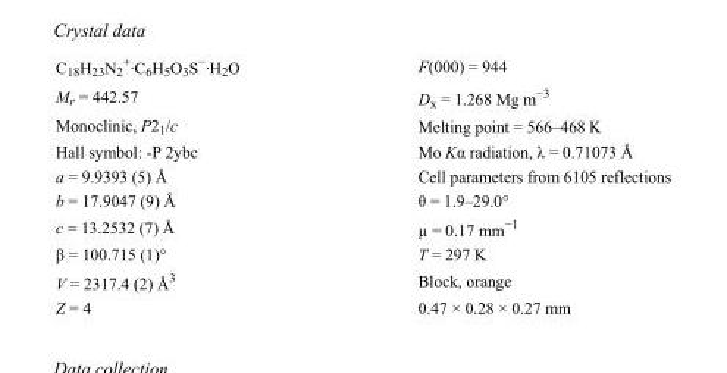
<table><tbody><tr><td>C<sub>18</sub>H<sub>23</sub>N<sub>2</sub> <sup>+</sup>·C<sub>6</sub>H<sub>5</sub>O<sub>3</sub>S<sup>−</sup>·H<sub>2</sub>O</td><td>F(000) = 944</td></tr><tr><td>M<sub>r</sub> = 442.57</td><td>D<sub>x</sub> = 1.268 Mg m<sup>−3</sup></td></tr><tr><td>Monoclinic, P2<sub>1</sub>/c</td><td>Melting point = 566–468 K</td></tr><tr><td>Hall symbol: -P 2ybc</td><td>Mo Kα radiation, λ = 0.71073 Å</td></tr><tr><td>a = 9.9393 (5) Å</td><td>Cell parameters from 6105 reflections</td></tr><tr><td>b = 17.9047 (9) Å</td><td>θ = 1.9–29.0°</td></tr><tr><td>c = 13.2532 (7) Å</td><td>µ = 0.17 mm<sup>−1</sup></td></tr><tr><td>β = 100.715 (1)°</td><td>T = 297 K</td></tr><tr><td>V = 2317.4 (2) Å<sup>3</sup></td><td>Block, orange</td></tr><tr><td>Z = 4</td><td>0.47 × 0.28 × 0.27 mm</td></tr></tbody></table>